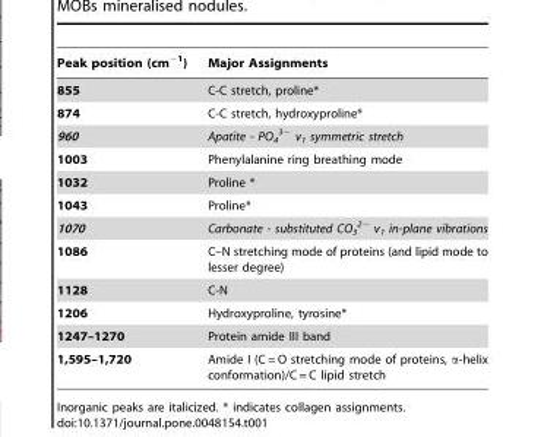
<table><thead><tr><td>Peak position (cm<sup>−1</sup>)</td><td>Major Assignments</td></tr></thead><tbody><tr><td>855</td><td>C-C stretch, proline*</td></tr><tr><td>874</td><td>C-C stretch, hydroxyproline*</td></tr><tr><td>960</td><td>Apatite - PO<sub>4</sub> <sup>3−</sup> v<sub>1</sub> symmetric stretch</td></tr><tr><td>1003</td><td>Phenylalanine ring breathing mode</td></tr><tr><td>1032</td><td>Proline *</td></tr><tr><td>1043</td><td>Proline*</td></tr><tr><td>1070</td><td>Carbonate - substituted CO<sub>3</sub> <sup>2−</sup> v<sub>1</sub> in-plane vibrations</td></tr><tr><td>1086</td><td>C–N stretching mode of proteins (and lipid mode to lesser degree)</td></tr><tr><td>1128</td><td>C-N</td></tr><tr><td>1206</td><td>Hydroxyproline, tyrosine*</td></tr><tr><td>1247–1270</td><td>Protein amide III band</td></tr><tr><td>1,595–1,720</td><td>Amide I (C = O stretching mode of proteins, α-helix conformation)/C = C lipid stretch</td></tr></tbody></table>